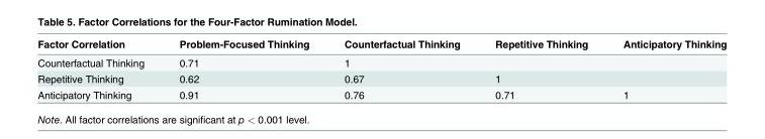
<table><thead><tr><td>Factor Correlation</td><td>Problem-Focused Thinking</td><td>Counterfactual Thinking</td><td>Repetitive Thinking</td><td>Anticipatory Thinking</td></tr></thead><tbody><tr><td>Counterfactual Thinking</td><td>0.71</td><td>1</td><td></td><td></td></tr><tr><td>Repetitive Thinking</td><td>0.62</td><td>0.67</td><td>1</td><td></td></tr><tr><td>Anticipatory Thinking</td><td>0.91</td><td>0.76</td><td>0.71</td><td>1</td></tr></tbody></table>